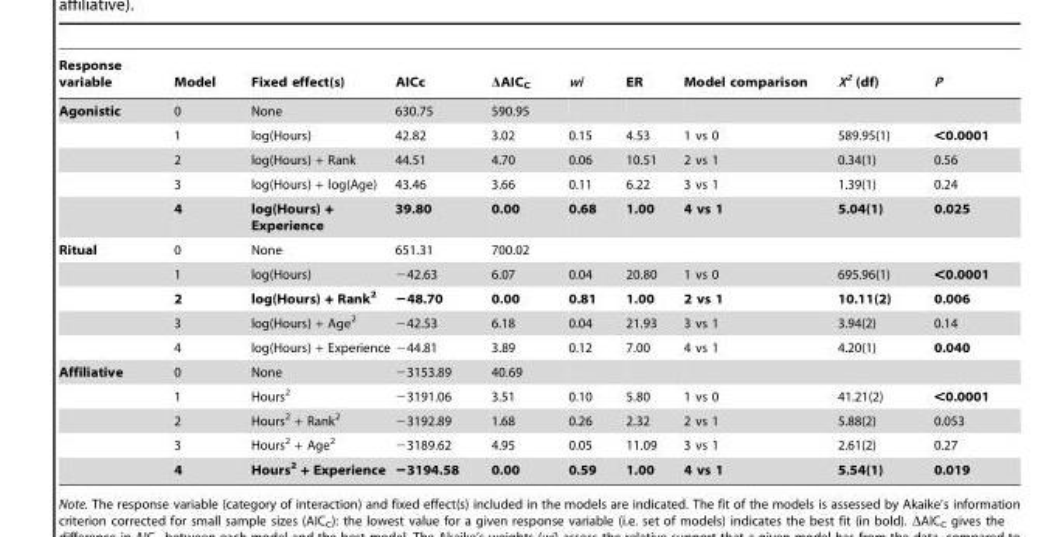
<table><thead><tr><td>Response variable</td><td>Model</td><td>Fixed effect(s)</td><td>AICc</td><td>ΔAIC<sub>C</sub></td><td>wi</td><td>ER</td><td>Model comparison</td><td>X<sup>2</sup> (df)</td><td>P</td></tr></thead><tbody><tr><td rowspan="5">Agonistic</td><td>0</td><td>None</td><td>630.75</td><td>590.95</td><td></td><td></td><td></td><td></td><td></td></tr><tr><td>1</td><td>log(Hours)</td><td>42.82</td><td>3.02</td><td>0.15</td><td>4.53</td><td>1 vs 0</td><td>589.95(1)</td><td>&lt;0.0001</td></tr><tr><td>2</td><td>log(Hours) + Rank</td><td>44.51</td><td>4.70</td><td>0.06</td><td>10.51</td><td>2 vs 1</td><td>0.34(1)</td><td>0.56</td></tr><tr><td>3</td><td>log(Hours) + log(Age)</td><td>43.46</td><td>3.66</td><td>0.11</td><td>6.22</td><td>3 vs 1</td><td>1.39(1)</td><td>0.24</td></tr><tr><td>4</td><td>log(Hours) + Experience</td><td>39.80</td><td>0.00</td><td>0.68</td><td>1.00</td><td>4 vs 1</td><td>5.04(1)</td><td>0.025</td></tr><tr><td rowspan="5">Ritual</td><td>0</td><td>None</td><td>651.31</td><td>700.02</td><td></td><td></td><td></td><td></td><td></td></tr><tr><td>1</td><td>log(Hours)</td><td>−42.63</td><td>6.07</td><td>0.04</td><td>20.80</td><td>1 vs 0</td><td>695.96(1)</td><td>&lt;0.0001</td></tr><tr><td>2</td><td>log(Hours) + Rank<sup>2</sup></td><td>−48.70</td><td>0.00</td><td>0.81</td><td>1.00</td><td>2 vs 1</td><td>10.11(2)</td><td>0.006</td></tr><tr><td>3</td><td>log(Hours) + Age<sup>2</sup></td><td>−42.53</td><td>6.18</td><td>0.04</td><td>21.93</td><td>3 vs 1</td><td>3.94(2)</td><td>0.14</td></tr><tr><td>4</td><td>log(Hours) + Experience</td><td>−44.81</td><td>3.89</td><td>0.12</td><td>7.00</td><td>4 vs 1</td><td>4.20(1)</td><td>0.040</td></tr><tr><td rowspan="5">Affiliative</td><td>0</td><td>None</td><td>−3153.89</td><td>40.69</td><td></td><td></td><td></td><td></td><td></td></tr><tr><td>1</td><td>Hours<sup>2</sup></td><td>−3191.06</td><td>3.51</td><td>0.10</td><td>5.80</td><td>1 vs 0</td><td>41.21(2)</td><td>&lt;0.0001</td></tr><tr><td>2</td><td>Hours<sup>2</sup> + Rank<sup>2</sup></td><td>−3192.89</td><td>1.68</td><td>0.26</td><td>2.32</td><td>2 vs 1</td><td>5.88(2)</td><td>0.053</td></tr><tr><td>3</td><td>Hours<sup>2</sup> + Age<sup>2</sup></td><td>−3189.62</td><td>4.95</td><td>0.05</td><td>11.09</td><td>3 vs 1</td><td>2.61(2)</td><td>0.27</td></tr><tr><td>4</td><td>Hours<sup>2</sup> + Experience</td><td>−3194.58</td><td>0.00</td><td>0.59</td><td>1.00</td><td>4 vs 1</td><td>5.54(1)</td><td>0.019</td></tr></tbody></table>